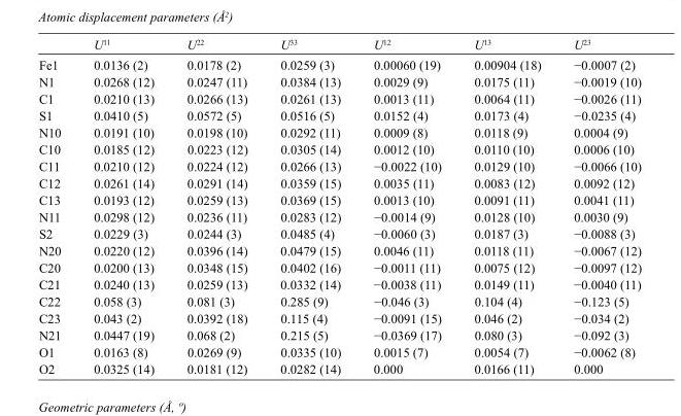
<table><thead><tr><td></td><td>U<sup>11</sup></td><td>U<sup>22</sup></td><td>U<sup>33</sup></td><td>U<sup>12</sup></td><td>U<sup>13</sup></td><td>U<sup>23</sup></td></tr></thead><tbody><tr><td>Fe1</td><td>0.0136 (2)</td><td>0.0178 (2)</td><td>0.0259 (3)</td><td>0.00060 (19)</td><td>0.00904 (18)</td><td>−0.0007 (2)</td></tr><tr><td>N1</td><td>0.0268 (12)</td><td>0.0247 (11)</td><td>0.0384 (13)</td><td>0.0029 (9)</td><td>0.0175 (11)</td><td>−0.0019 (10)</td></tr><tr><td>C1</td><td>0.0210 (13)</td><td>0.0266 (13)</td><td>0.0261 (13)</td><td>0.0013 (11)</td><td>0.0064 (11)</td><td>−0.0026 (11)</td></tr><tr><td>S1</td><td>0.0410 (5)</td><td>0.0572 (5)</td><td>0.0516 (5)</td><td>0.0152 (4)</td><td>0.0173 (4)</td><td>−0.0235 (4)</td></tr><tr><td>N10</td><td>0.0191 (10)</td><td>0.0198 (10)</td><td>0.0292 (11)</td><td>0.0009 (8)</td><td>0.0118 (9)</td><td>0.0004 (9)</td></tr><tr><td>C10</td><td>0.0185 (12)</td><td>0.0223 (12)</td><td>0.0305 (14)</td><td>0.0012 (10)</td><td>0.0110 (10)</td><td>0.0006 (10)</td></tr><tr><td>C11</td><td>0.0210 (12)</td><td>0.0224 (12)</td><td>0.0266 (13)</td><td>−0.0022 (10)</td><td>0.0129 (10)</td><td>−0.0066 (10)</td></tr><tr><td>C12</td><td>0.0261 (14)</td><td>0.0291 (14)</td><td>0.0359 (15)</td><td>0.0035 (11)</td><td>0.0083 (12)</td><td>0.0092 (12)</td></tr><tr><td>C13</td><td>0.0193 (12)</td><td>0.0259 (13)</td><td>0.0369 (15)</td><td>0.0013 (10)</td><td>0.0091 (11)</td><td>0.0041 (11)</td></tr><tr><td>N11</td><td>0.0298 (12)</td><td>0.0236 (11)</td><td>0.0283 (12)</td><td>−0.0014 (9)</td><td>0.0128 (10)</td><td>0.0030 (9)</td></tr><tr><td>S2</td><td>0.0229 (3)</td><td>0.0244 (3)</td><td>0.0485 (4)</td><td>−0.0060 (3)</td><td>0.0187 (3)</td><td>−0.0088 (3)</td></tr><tr><td>N20</td><td>0.0220 (12)</td><td>0.0396 (14)</td><td>0.0479 (15)</td><td>0.0046 (11)</td><td>0.0118 (11)</td><td>−0.0067 (12)</td></tr><tr><td>C20</td><td>0.0200 (13)</td><td>0.0348 (15)</td><td>0.0402 (16)</td><td>−0.0011 (11)</td><td>0.0075 (12)</td><td>−0.0097 (12)</td></tr><tr><td>C21</td><td>0.0240 (13)</td><td>0.0259 (13)</td><td>0.0332 (14)</td><td>−0.0038 (11)</td><td>0.0149 (11)</td><td>−0.0040 (11)</td></tr><tr><td>C22</td><td>0.058 (3)</td><td>0.081 (3)</td><td>0.285 (9)</td><td>−0.046 (3)</td><td>0.104 (4)</td><td>−0.123 (5)</td></tr><tr><td>C23</td><td>0.043 (2)</td><td>0.0392 (18)</td><td>0.115 (4)</td><td>−0.0091 (15)</td><td>0.046 (2)</td><td>−0.034 (2)</td></tr><tr><td>N21</td><td>0.0447 (19)</td><td>0.068 (2)</td><td>0.215 (5)</td><td>−0.0369 (17)</td><td>0.080 (3)</td><td>−0.092 (3)</td></tr><tr><td>O1</td><td>0.0163 (8)</td><td>0.0269 (9)</td><td>0.0335 (10)</td><td>0.0015 (7)</td><td>0.0054 (7)</td><td>−0.0062 (8)</td></tr><tr><td>O2</td><td>0.0325 (14)</td><td>0.0181 (12)</td><td>0.0282 (14)</td><td>0.000</td><td>0.0166 (11)</td><td>0.000</td></tr></tbody></table>